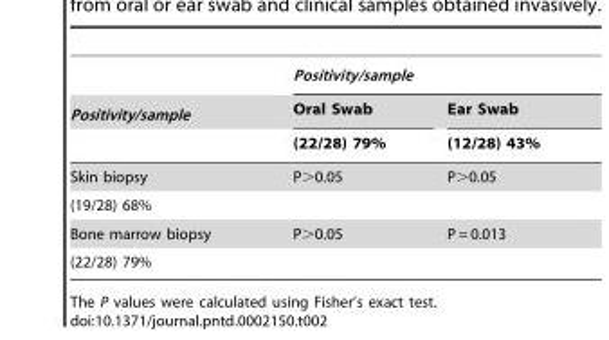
<table><thead><tr><td rowspan="3">Positivity/sample</td><td colspan="2">Positivity/sample</td></tr><tr><td rowspan="2">Oral Swab (22/28) 79%</td><td rowspan="2">Ear Swab (12/28) 43%</td></tr><tr></tr></thead><tbody><tr><td>Skin biopsy</td><td>P&gt;0.05</td><td>P&gt;0.05</td></tr><tr><td colspan="3">(19/28) 68%</td></tr><tr><td>Bone marrow biopsy</td><td>P&gt;0.05</td><td>P = 0.013</td></tr><tr><td>(22/28) 79%</td><td></td><td></td></tr></tbody></table>